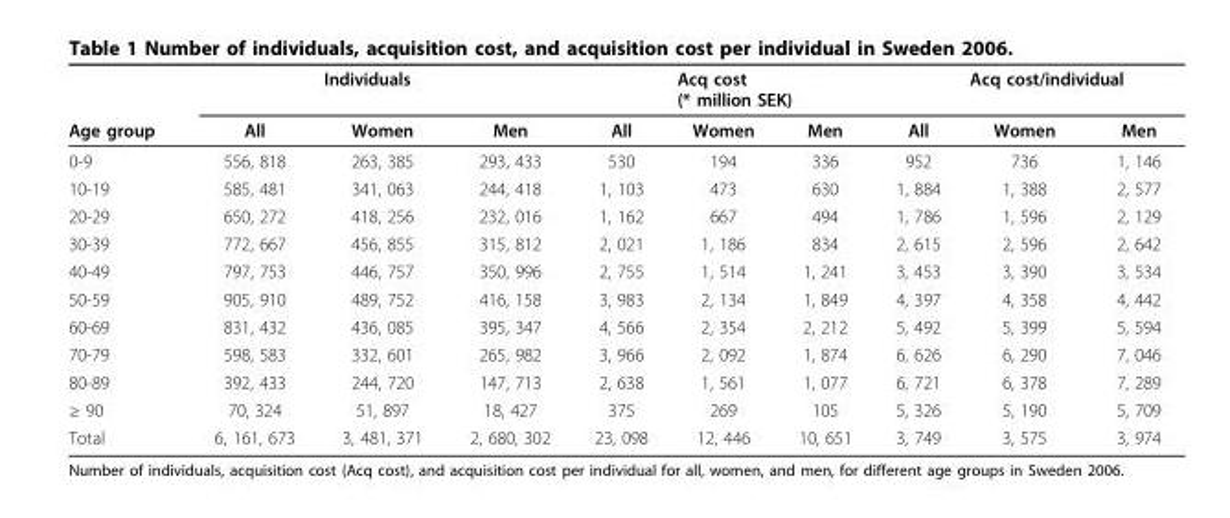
<table><thead><tr><td rowspan="2">Age group</td><td rowspan="2">All</td><td rowspan="2">Individuals Women</td><td rowspan="2">Men</td><td rowspan="2">All</td><td colspan="2">Acq cost (* million SEK)</td><td rowspan="2">All</td><td colspan="2">Acq cost/individual</td></tr><tr><td>Women</td><td>Men</td><td>Women</td><td>Men</td></tr></thead><tbody><tr><td>0-9</td><td>556, 818</td><td>263, 385</td><td>293, 433</td><td>530</td><td>194</td><td>336</td><td>952</td><td>736</td><td>1, 146</td></tr><tr><td>10-19</td><td>585, 481</td><td>341, 063</td><td>244, 418</td><td>1, 103</td><td>473</td><td>630</td><td>1, 884</td><td>1, 388</td><td>2, 577</td></tr><tr><td>20-29</td><td>650, 272</td><td>418, 256</td><td>232, 016</td><td>1, 162</td><td>667</td><td>494</td><td>1, 786</td><td>1, 596</td><td>2, 129</td></tr><tr><td>30-39</td><td>772, 667</td><td>456, 855</td><td>315, 812</td><td>2, 021</td><td>1, 186</td><td>834</td><td>2, 615</td><td>2, 596</td><td>2, 642</td></tr><tr><td>40-49</td><td>797, 753</td><td>446, 757</td><td>350, 996</td><td>2, 755</td><td>1, 514</td><td>1, 241</td><td>3, 453</td><td>3, 390</td><td>3, 534</td></tr><tr><td>50-59</td><td>905, 910</td><td>489, 752</td><td>416, 158</td><td>3, 983</td><td>2, 134</td><td>1, 849</td><td>4, 397</td><td>4, 358</td><td>4, 442</td></tr><tr><td>60-69</td><td>831, 432</td><td>436, 085</td><td>395, 347</td><td>4, 566</td><td>2, 354</td><td>2, 212</td><td>5, 492</td><td>5, 399</td><td>5, 594</td></tr><tr><td>70-79</td><td>598, 583</td><td>332, 601</td><td>265, 982</td><td>3, 966</td><td>2, 092</td><td>1, 874</td><td>6, 626</td><td>6, 290</td><td>7, 046</td></tr><tr><td>80-89</td><td>392, 433</td><td>244, 720</td><td>147, 713</td><td>2, 638</td><td>1, 561</td><td>1, 077</td><td>6, 721</td><td>6, 378</td><td>7, 289</td></tr><tr><td>≥ 90</td><td>70, 324</td><td>51, 897</td><td>18, 427</td><td>375</td><td>269</td><td>105</td><td>5, 326</td><td>5, 190</td><td>5, 709</td></tr><tr><td>Total</td><td>6, 161, 673</td><td>3, 481, 371</td><td>2, 680, 302</td><td>23, 098</td><td>12, 446</td><td>10, 651</td><td>3, 749</td><td>3, 575</td><td>3, 974</td></tr></tbody></table>